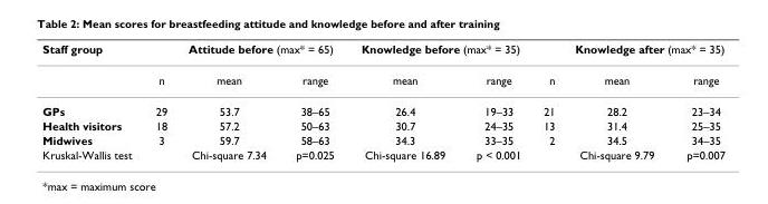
<table><thead><tr><td rowspan="2">Staff group</td><td rowspan="2">n</td><td colspan="2">Attitude before (max* = 65)</td><td colspan="2">Knowledge before (max* = 35)</td><td rowspan="2">n</td><td colspan="2">Knowledge after (max* = 35)</td></tr><tr><td>mean</td><td>range</td><td>mean</td><td>range</td><td>mean</td><td>range</td></tr></thead><tbody><tr><td>GPs</td><td>29</td><td>53.7</td><td>38–65</td><td>26.4</td><td>19–33</td><td>21</td><td>28.2</td><td>23–34</td></tr><tr><td>Health visitors</td><td>18</td><td>57.2</td><td>50–63</td><td>30.7</td><td>24–35</td><td>13</td><td>31.4</td><td>25–35</td></tr><tr><td>Midwives</td><td>3</td><td>59.7</td><td>58–63</td><td>34.3</td><td>33–35</td><td>2</td><td>34.5</td><td>34–35</td></tr><tr><td>Kruskal-Wallis test</td><td></td><td>Chi-square 7.34</td><td>p=0.025</td><td>Chi-square 16.89</td><td>p &lt; 0.001</td><td></td><td>Chi-square 9.79</td><td>p=0.007</td></tr></tbody></table>